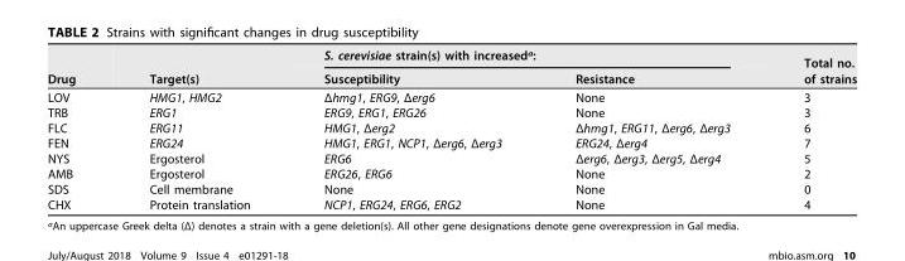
<table><thead><tr><td rowspan="2">Drug</td><td rowspan="2">Target(s)</td><td colspan="2">S. cerevisiae strain(s) with increased<sup>a</sup>:</td><td rowspan="2">Total no. of strains</td></tr><tr><td>Susceptibility</td><td>Resistance</td></tr></thead><tbody><tr><td>LOV</td><td>HMG1, HMG2</td><td>Δhmg1, ERG9, Δerg6</td><td>None</td><td>3</td></tr><tr><td>TRB</td><td>ERG1</td><td>ERG9, ERG1, ERG26</td><td>None</td><td>3</td></tr><tr><td>FLC</td><td>ERG11</td><td>HMG1, Δerg2</td><td>Δhmg1, ERG11, Δerg6, Δerg3</td><td>6</td></tr><tr><td>FEN</td><td>ERG24</td><td>HMG1, ERG1, NCP1, Δerg6, Δerg3</td><td>ERG24, Δerg4</td><td>7</td></tr><tr><td>NYS</td><td>Ergosterol</td><td>ERG6</td><td>Δerg6, Δerg3, Δerg5, Δerg4</td><td>5</td></tr><tr><td>AMB</td><td>Ergosterol</td><td>ERG26, ERG6</td><td>None</td><td>2</td></tr><tr><td>SDS</td><td>Cell membrane</td><td>None</td><td>None</td><td>0</td></tr><tr><td>CHX</td><td>Protein translation</td><td>NCP1, ERG24, ERG6, ERG2</td><td>None</td><td>4</td></tr></tbody></table>